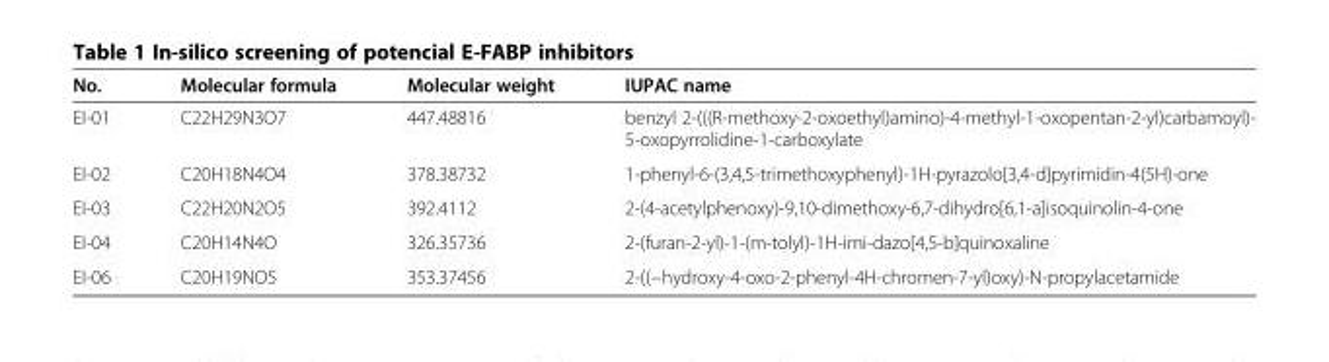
<table><thead><tr><td>No.</td><td>Molecular formula</td><td>Molecular weight</td><td>IUPAC name</td></tr></thead><tbody><tr><td>EI-01</td><td>C22H29N3O7</td><td>447.48816</td><td>benzyl 2-(((R-methoxy-2-oxoethyl)amino)-4-methyl-1-oxopentan-2-yl)carbamoyl)- 5-oxopyrrolidine-1-carboxylate</td></tr><tr><td>EI-02</td><td>C20H18N4O4</td><td>378.38732</td><td>1-phenyl-6-(3,4,5-trimethoxyphenyl)-1H-pyrazolo[3,4-d]pyrimidin-4(5H)-one</td></tr><tr><td>EI-03</td><td>C22H20N2O5</td><td>392.4112</td><td>2-(4-acetylphenoxy)-9,10-dimethoxy-6,7-dihydro[6,1-a]isoquinolin-4-one</td></tr><tr><td>EI-04</td><td>C20H14N4O</td><td>326.35736</td><td>2-(furan-2-yl)-1-(m-tolyl)-1H-imi-dazo[4,5-b]quinoxaline</td></tr><tr><td>EI-06</td><td>C20H19NO5</td><td>353.37456</td><td>2-((−hydroxy-4-oxo-2-phenyl-4H-chromen-7-yl)oxy)-N-propylacetamide</td></tr></tbody></table>